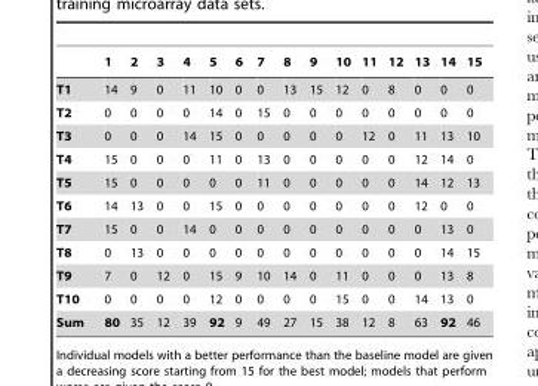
<table><thead><tr><td></td><td>1</td><td>2</td><td>3</td><td>4</td><td>5</td><td>6</td><td>7</td><td>8</td><td>9</td><td>10</td><td>11</td><td>12</td><td>13</td><td>14</td><td>15</td></tr></thead><tbody><tr><td>T1</td><td>14</td><td>9</td><td>0</td><td>11</td><td>10</td><td>0</td><td>0</td><td>13</td><td>15</td><td>12</td><td>0</td><td>8</td><td>0</td><td>0</td><td>0</td></tr><tr><td>T2</td><td>0</td><td>0</td><td>0</td><td>0</td><td>14</td><td>0</td><td>15</td><td>0</td><td>0</td><td>0</td><td>0</td><td>0</td><td>0</td><td>0</td><td>0</td></tr><tr><td>T3</td><td>0</td><td>0</td><td>0</td><td>14</td><td>15</td><td>0</td><td>0</td><td>0</td><td>0</td><td>0</td><td>12</td><td>0</td><td>11</td><td>13</td><td>10</td></tr><tr><td>T4</td><td>15</td><td>0</td><td>0</td><td>0</td><td>11</td><td>0</td><td>13</td><td>0</td><td>0</td><td>0</td><td>0</td><td>0</td><td>12</td><td>14</td><td>0</td></tr><tr><td>T5</td><td>15</td><td>0</td><td>0</td><td>0</td><td>0</td><td>0</td><td>11</td><td>0</td><td>0</td><td>0</td><td>0</td><td>0</td><td>14</td><td>12</td><td>13</td></tr><tr><td>T6</td><td>14</td><td>13</td><td>0</td><td>0</td><td>15</td><td>0</td><td>0</td><td>0</td><td>0</td><td>0</td><td>0</td><td>0</td><td>12</td><td>0</td><td>0</td></tr><tr><td>T7</td><td>15</td><td>0</td><td>0</td><td>14</td><td>0</td><td>0</td><td>0</td><td>0</td><td>0</td><td>0</td><td>0</td><td>0</td><td>0</td><td>13</td><td>0</td></tr><tr><td>T8</td><td>0</td><td>13</td><td>0</td><td>0</td><td>0</td><td>0</td><td>0</td><td>0</td><td>0</td><td>0</td><td>0</td><td>0</td><td>0</td><td>14</td><td>15</td></tr><tr><td>T9</td><td>7</td><td>0</td><td>12</td><td>0</td><td>15</td><td>9</td><td>10</td><td>14</td><td>0</td><td>11</td><td>0</td><td>0</td><td>0</td><td>13</td><td>8</td></tr><tr><td>T10</td><td>0</td><td>0</td><td>0</td><td>0</td><td>12</td><td>0</td><td>0</td><td>0</td><td>0</td><td>15</td><td>0</td><td>0</td><td>14</td><td>13</td><td>0</td></tr><tr><td>Sum</td><td>80</td><td>35</td><td>12</td><td>39</td><td>92</td><td>9</td><td>49</td><td>27</td><td>15</td><td>38</td><td>12</td><td>8</td><td>63</td><td>92</td><td>46</td></tr></tbody></table>